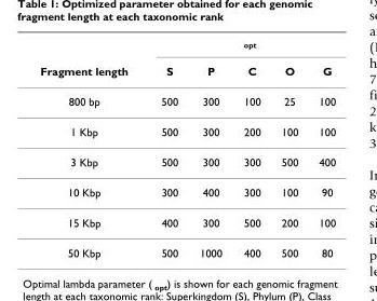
<table><thead><tr><td rowspan="2">Fragment length</td><td colspan="5">opt</td></tr><tr><td>S</td><td>P</td><td>C</td><td>O</td><td>G</td></tr></thead><tbody><tr><td>800 bp</td><td>500</td><td>300</td><td>100</td><td>25</td><td>100</td></tr><tr><td>1 Kbp</td><td>500</td><td>300</td><td>200</td><td>100</td><td>100</td></tr><tr><td>3 Kbp</td><td>500</td><td>300</td><td>300</td><td>500</td><td>400</td></tr><tr><td>10 Kbp</td><td>300</td><td>400</td><td>300</td><td>100</td><td>90</td></tr><tr><td>15 Kbp</td><td>400</td><td>300</td><td>500</td><td>200</td><td>100</td></tr><tr><td>50 Kbp</td><td>500</td><td>1000</td><td>400</td><td>500</td><td>80</td></tr></tbody></table>